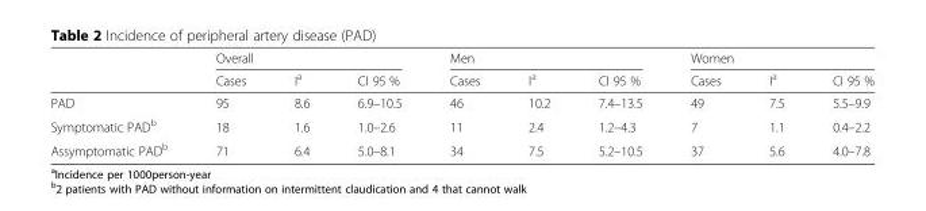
<table><thead><tr><td rowspan="2"></td><td colspan="3">Overall</td><td colspan="3">Men</td><td colspan="3">Women</td></tr><tr><td>Cases</td><td>I<sup>a</sup></td><td>CI 95 %</td><td>Cases</td><td>I<sup>a</sup></td><td>CI 95 %</td><td>Cases</td><td>I<sup>a</sup></td><td>CI 95 %</td></tr></thead><tbody><tr><td>PAD</td><td>95</td><td>8.6</td><td>6.9–10.5</td><td>46</td><td>10.2</td><td>7.4–13.5</td><td>49</td><td>7.5</td><td>5.5–9.9</td></tr><tr><td>Symptomatic PAD<sup>b</sup></td><td>18</td><td>1.6</td><td>1.0–2.6</td><td>11</td><td>2.4</td><td>1.2–4.3</td><td>7</td><td>1.1</td><td>0.4–2.2</td></tr><tr><td>Assymptomatic PAD<sup>b</sup></td><td>71</td><td>6.4</td><td>5.0–8.1</td><td>34</td><td>7.5</td><td>5.2–10.5</td><td>37</td><td>5.6</td><td>4.0–7.8</td></tr></tbody></table>